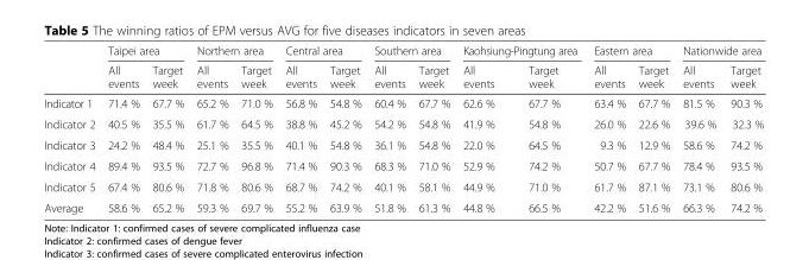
<table><thead><tr><td rowspan="2"></td><td colspan="2">Taipei area</td><td colspan="2">Northern area</td><td colspan="2">Central area</td><td colspan="2">Southern area</td><td colspan="2">Kaohsiung-Pingtung area</td><td colspan="2">Eastern area</td><td colspan="2">Nationwide area</td></tr><tr><td>All events</td><td>Target week</td><td>All events</td><td>Target week</td><td>All events</td><td>Target week</td><td>All events</td><td>Target week</td><td>All events</td><td>Target week</td><td>All events</td><td>Target week</td><td>All events</td><td>Target week</td></tr></thead><tbody><tr><td>Indicator 1</td><td>71.4 %</td><td>67.7 %</td><td>65.2 %</td><td>71.0 %</td><td>56.8 %</td><td>54.8 %</td><td>60.4 %</td><td>67.7 %</td><td>62.6 %</td><td>67.7 %</td><td>63.4 %</td><td>67.7 %</td><td>81.5 %</td><td>90.3 %</td></tr><tr><td>Indicator 2</td><td>40.5 %</td><td>35.5 %</td><td>61.7 %</td><td>64.5 %</td><td>38.8 %</td><td>45.2 %</td><td>54.2 %</td><td>54.8 %</td><td>41.9 %</td><td>54.8 %</td><td>26.0 %</td><td>22.6 %</td><td>39.6 %</td><td>32.3 %</td></tr><tr><td>Indicator 3</td><td>24.2 %</td><td>48.4 %</td><td>25.1 %</td><td>35.5 %</td><td>40.1 %</td><td>54.8 %</td><td>36.1 %</td><td>54.8 %</td><td>22.0 %</td><td>64.5 %</td><td>9.3 %</td><td>12.9 %</td><td>58.6 %</td><td>74.2 %</td></tr><tr><td>Indicator 4</td><td>89.4 %</td><td>93.5 %</td><td>72.7 %</td><td>96.8 %</td><td>71.4 %</td><td>90.3 %</td><td>68.3 %</td><td>71.0 %</td><td>52.9 %</td><td>74.2 %</td><td>50.7 %</td><td>67.7 %</td><td>78.4 %</td><td>93.5 %</td></tr><tr><td>Indicator 5</td><td>67.4 %</td><td>80.6 %</td><td>71.8 %</td><td>80.6 %</td><td>68.7 %</td><td>74.2 %</td><td>40.1 %</td><td>58.1 %</td><td>44.9 %</td><td>71.0 %</td><td>61.7 %</td><td>87.1 %</td><td>73.1 %</td><td>80.6 %</td></tr><tr><td>Average</td><td>58.6 %</td><td>65.2 %</td><td>59.3 %</td><td>69.7 %</td><td>55.2 %</td><td>63.9 %</td><td>51.8 %</td><td>61.3 %</td><td>44.8 %</td><td>66.5 %</td><td>42.2 %</td><td>51.6 %</td><td>66.3 %</td><td>74.2 %</td></tr></tbody></table>